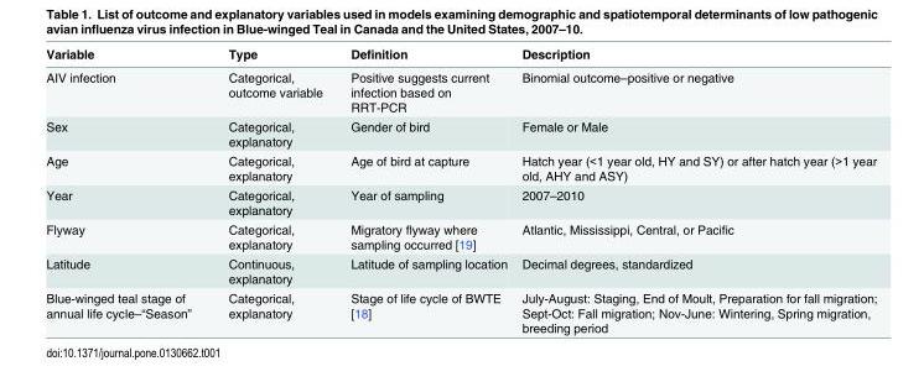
<table><thead><tr><td>Variable</td><td>Type</td><td>Definition</td><td>Description</td></tr></thead><tbody><tr><td>AIV infection</td><td>Categorical, outcome variable</td><td>Positive suggests current infection based on RRT-PCR</td><td>Binomial outcome–positive or negative</td></tr><tr><td>Sex</td><td>Categorical, explanatory</td><td>Gender of bird</td><td>Female or Male</td></tr><tr><td>Age</td><td>Categorical, explanatory</td><td>Age of bird at capture</td><td>Hatch year (&lt;1 year old, HY and SY) or after hatch year (&gt;1 year old, AHY and ASY)</td></tr><tr><td>Year</td><td>Categorical, explanatory</td><td>Year of sampling</td><td>2007–2010</td></tr><tr><td>Flyway</td><td>Categorical, explanatory</td><td>Migratory flyway where sampling occurred [19]</td><td>Atlantic, Mississippi, Central, or Pacific</td></tr><tr><td>Latitude</td><td>Continuous, explanatory</td><td>Latitude of sampling location</td><td>Decimal degrees, standardized</td></tr><tr><td>Blue-winged teal stage of annual life cycle–“Season”</td><td>Categorical, explanatory</td><td>Stage of life cycle of BWTE [18]</td><td>July-August: Staging, End of Moult, Preparation for fall migration; Sept-Oct: Fall migration; Nov-June: Wintering, Spring migration, breeding period</td></tr></tbody></table>